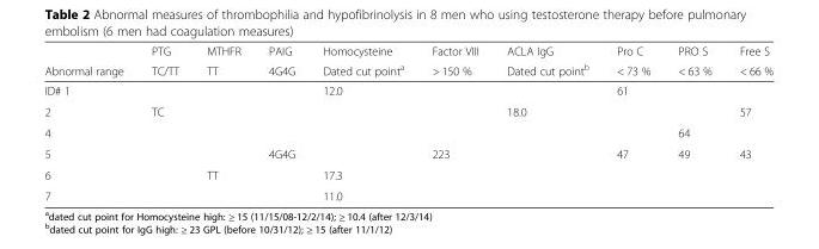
<table><thead><tr><td rowspan="2">Abnormal range</td><td rowspan="2">PTG TC/TT</td><td rowspan="2">MTHFR TT</td><td rowspan="2">PAIG 4G4G</td><td rowspan="2">Homocysteine Dated cut point<sup>a</sup></td><td rowspan="2">Factor VIII &gt; 150 %</td><td rowspan="2">ACLA IgG Dated cut point<sup>b</sup></td><td rowspan="2">Pro C &lt; 73 %</td><td rowspan="2">PRO S &lt; 63 %</td><td rowspan="2">Free S &lt; 66 %</td></tr><tr></tr></thead><tbody><tr><td>ID# 1</td><td></td><td></td><td></td><td>12.0</td><td></td><td></td><td>61</td><td></td><td></td></tr><tr><td>2</td><td>TC</td><td></td><td></td><td></td><td></td><td>18.0</td><td></td><td></td><td>57</td></tr><tr><td>4</td><td></td><td></td><td></td><td></td><td></td><td></td><td></td><td>64</td><td></td></tr><tr><td>5</td><td></td><td></td><td>4G4G</td><td></td><td>223</td><td></td><td>47</td><td>49</td><td>43</td></tr><tr><td>6</td><td></td><td>TT</td><td></td><td>17.3</td><td></td><td></td><td></td><td></td><td></td></tr><tr><td>7</td><td></td><td></td><td></td><td>11.0</td><td></td><td></td><td></td><td></td><td></td></tr></tbody></table>